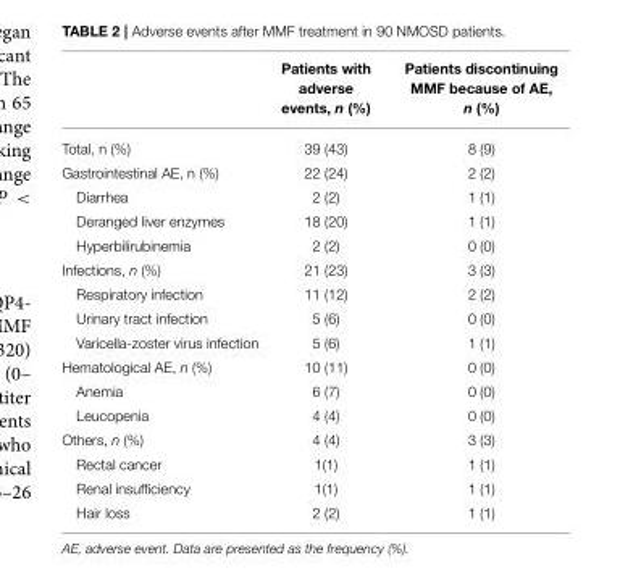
<table><thead><tr><td></td><td>Patients with adverse events, n (%)</td><td>Patients discontinuing MMF because of AE, n (%)</td></tr></thead><tbody><tr><td>Total, n (%)</td><td>39 (43)</td><td>8 (9)</td></tr><tr><td>Gastrointestinal AE, n (%)</td><td>22 (24)</td><td>2 (2)</td></tr><tr><td>Diarrhea</td><td>2 (2)</td><td>1 (1)</td></tr><tr><td>Deranged liver enzymes</td><td>18 (20)</td><td>1 (1)</td></tr><tr><td>Hyperbilirubinemia</td><td>2 (2)</td><td>0 (0)</td></tr><tr><td>Infections, n (%)</td><td>21 (23)</td><td>3 (3)</td></tr><tr><td>Respiratory infection</td><td>11 (12)</td><td>2 (2)</td></tr><tr><td>Urinary tract infection</td><td>5 (6)</td><td>0 (0)</td></tr><tr><td>Varicella-zoster virus infection</td><td>5 (6)</td><td>1 (1)</td></tr><tr><td>Hematological AE, n (%)</td><td>10 (11)</td><td>0 (0)</td></tr><tr><td>Anemia</td><td>6 (7)</td><td>0 (0)</td></tr><tr><td>Leucopenia</td><td>4 (4)</td><td>0 (0)</td></tr><tr><td>Others, n (%)</td><td>4 (4)</td><td>3 (3)</td></tr><tr><td>Rectal cancer</td><td>1(1)</td><td>1 (1)</td></tr><tr><td>Renal insufficiency</td><td>1(1)</td><td>1 (1)</td></tr><tr><td>Hair loss</td><td>2 (2)</td><td>1 (1)</td></tr></tbody></table>